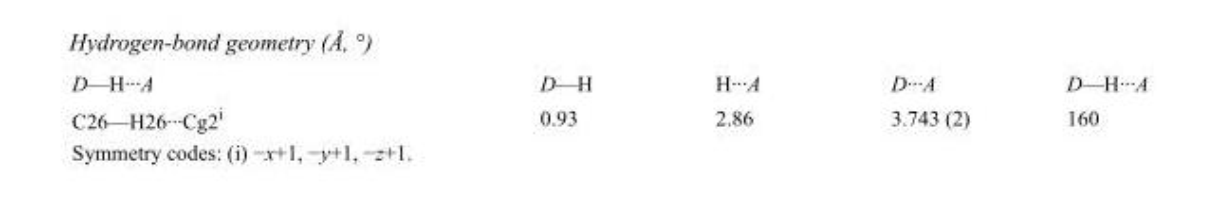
<table><tbody><tr><td>D—H···A</td><td>D—H</td><td>H···A</td><td>D···A</td><td>D—H···A</td></tr><tr><td>C26—H26···Cg2<sup>i</sup></td><td>0.93</td><td>2.86</td><td>3.743 (2)</td><td>160</td></tr></tbody></table>